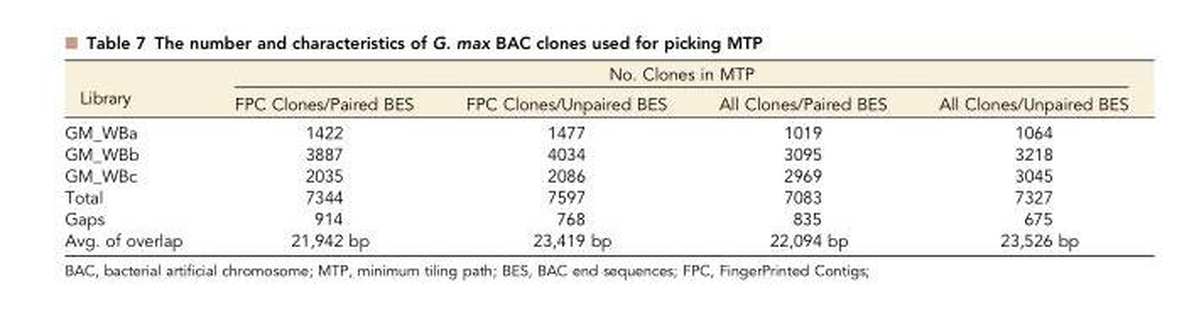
<table><thead><tr><td rowspan="2">Library</td><td colspan="4">No. Clones in MTP</td></tr><tr><td>FPC Clones/Paired BES</td><td>FPC Clones/Unpaired BES</td><td>All Clones/Paired BES</td><td>All Clones/Unpaired BES</td></tr></thead><tbody><tr><td>GM_WBa</td><td>1422</td><td>1477</td><td>1019</td><td>1064</td></tr><tr><td>GM_WBb</td><td>3887</td><td>4034</td><td>3095</td><td>3218</td></tr><tr><td>GM_WBc</td><td>2035</td><td>2086</td><td>2969</td><td>3045</td></tr><tr><td>Total</td><td>7344</td><td>7597</td><td>7083</td><td>7327</td></tr><tr><td>Gaps</td><td>914</td><td>768</td><td>835</td><td>675</td></tr><tr><td>Avg. of overlap</td><td>21,942 bp</td><td>23,419 bp</td><td>22,094 bp</td><td>23,526 bp</td></tr></tbody></table>